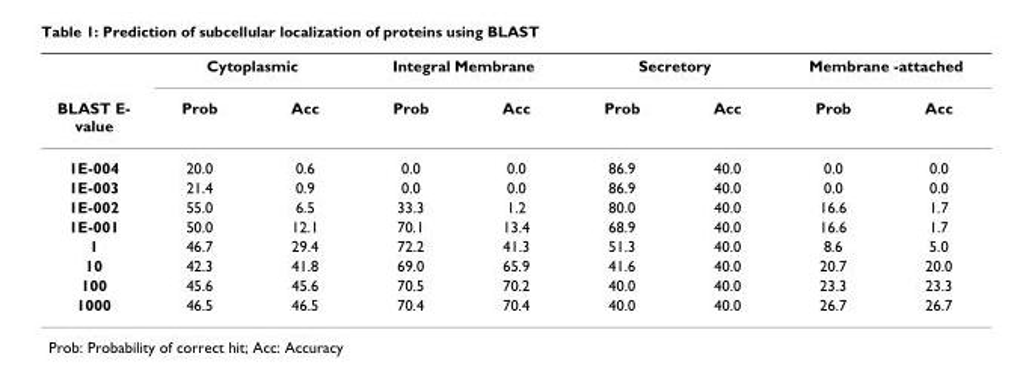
<table><thead><tr><td rowspan="2">BLAST E- value</td><td colspan="2">Cytoplasmic</td><td colspan="2">Integral Membrane</td><td colspan="2">Secretory</td><td colspan="2">Membrane -attached</td></tr><tr><td>Prob</td><td>Acc</td><td>Prob</td><td>Acc</td><td>Prob</td><td>Acc</td><td>Prob</td><td>Acc</td></tr></thead><tbody><tr><td>1E-004</td><td>20.0</td><td>0.6</td><td>0.0</td><td>0.0</td><td>86.9</td><td>40.0</td><td>0.0</td><td>0.0</td></tr><tr><td>1E-003</td><td>21.4</td><td>0.9</td><td>0.0</td><td>0.0</td><td>86.9</td><td>40.0</td><td>0.0</td><td>0.0</td></tr><tr><td>1E-002</td><td>55.0</td><td>6.5</td><td>33.3</td><td>1.2</td><td>80.0</td><td>40.0</td><td>16.6</td><td>1.7</td></tr><tr><td>1E-001</td><td>50.0</td><td>12.1</td><td>70.1</td><td>13.4</td><td>68.9</td><td>40.0</td><td>16.6</td><td>1.7</td></tr><tr><td>1</td><td>46.7</td><td>29.4</td><td>72.2</td><td>41.3</td><td>51.3</td><td>40.0</td><td>8.6</td><td>5.0</td></tr><tr><td>10</td><td>42.3</td><td>41.8</td><td>69.0</td><td>65.9</td><td>41.6</td><td>40.0</td><td>20.7</td><td>20.0</td></tr><tr><td>100</td><td>45.6</td><td>45.6</td><td>70.5</td><td>70.2</td><td>40.0</td><td>40.0</td><td>23.3</td><td>23.3</td></tr><tr><td>1000</td><td>46.5</td><td>46.5</td><td>70.4</td><td>70.4</td><td>40.0</td><td>40.0</td><td>26.7</td><td>26.7</td></tr></tbody></table>